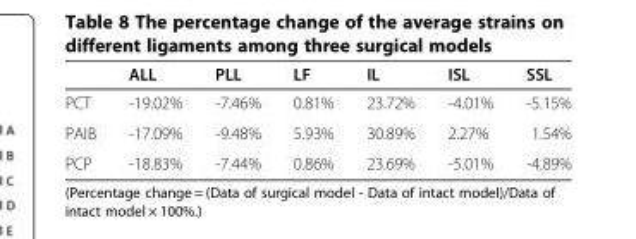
<table><thead><tr><td></td><td>ALL</td><td>PLL</td><td>LF</td><td>IL</td><td>ISL</td><td>SSL</td></tr></thead><tbody><tr><td>PCT</td><td>-19.02%</td><td>-7.46%</td><td>0.81%</td><td>23.72%</td><td>-4.01%</td><td>-5.15%</td></tr><tr><td>PAIB</td><td>-17.09%</td><td>-9.48%</td><td>5.93%</td><td>30.89%</td><td>2.27%</td><td>1.54%</td></tr><tr><td>PCP</td><td>-18.83%</td><td>-7.44%</td><td>0.86%</td><td>23.69%</td><td>-5.01%</td><td>-4.89%</td></tr></tbody></table>